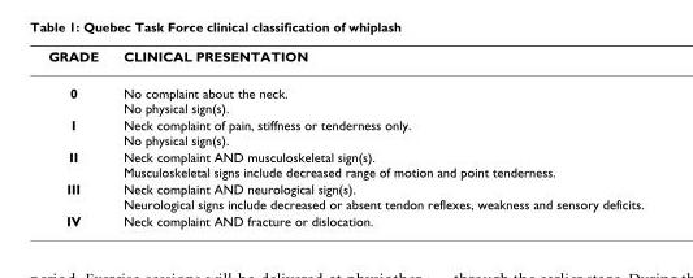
<table><thead><tr><td>GRADE</td><td>CLINICAL PRESENTATION</td></tr></thead><tbody><tr><td>0</td><td>No complaint about the neck. No physical sign(s).</td></tr><tr><td>I</td><td>Neck complaint of pain, stiffness or tenderness only. No physical sign(s).</td></tr><tr><td>II</td><td>Neck complaint AND musculoskeletal sign(s). Musculoskeletal signs include decreased range of motion and point tenderness.</td></tr><tr><td>III</td><td>Neck complaint AND neurological sign(s). Neurological signs include decreased or absent tendon reflexes, weakness and sensory deficits.</td></tr><tr><td>IV</td><td>Neck complaint AND fracture or dislocation.</td></tr></tbody></table>